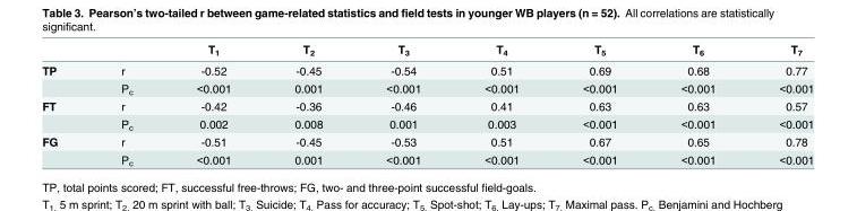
<table><thead><tr><td></td><td></td><td>T<sub>1</sub></td><td>T<sub>2</sub></td><td>T<sub>3</sub></td><td>T<sub>4</sub></td><td>T<sub>5</sub></td><td>T<sub>6</sub></td><td>T<sub>7</sub></td></tr></thead><tbody><tr><td rowspan="2">TP</td><td>r</td><td>-0.52</td><td>-0.45</td><td>-0.54</td><td>0.51</td><td>0.69</td><td>0.68</td><td>0.77</td></tr><tr><td>P<sub>c</sub></td><td>&lt;0.001</td><td>0.001</td><td>&lt;0.001</td><td>&lt;0.001</td><td>&lt;0.001</td><td>&lt;0.001</td><td>&lt;0.001</td></tr><tr><td rowspan="2">FT</td><td>r</td><td>-0.42</td><td>-0.36</td><td>-0.46</td><td>0.41</td><td>0.63</td><td>0.63</td><td>0.57</td></tr><tr><td>P<sub>c</sub></td><td>0.002</td><td>0.008</td><td>0.001</td><td>0.003</td><td>&lt;0.001</td><td>&lt;0.001</td><td>&lt;0.001</td></tr><tr><td rowspan="2">FG</td><td>r</td><td>-0.51</td><td>-0.45</td><td>-0.53</td><td>0.51</td><td>0.67</td><td>0.65</td><td>0.78</td></tr><tr><td>P<sub>c</sub></td><td>&lt;0.001</td><td>0.001</td><td>&lt;0.001</td><td>&lt;0.001</td><td>&lt;0.001</td><td>&lt;0.001</td><td>&lt;0.001</td></tr></tbody></table>